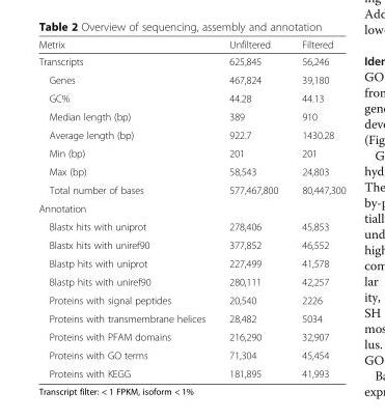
<table><thead><tr><td>Metrix</td><td>Unfiltered</td><td>Filtered</td></tr></thead><tbody><tr><td>Transcripts</td><td>625,845</td><td>56,246</td></tr><tr><td>Genes</td><td>467,824</td><td>39,180</td></tr><tr><td>GC%</td><td>44.28</td><td>44.13</td></tr><tr><td>Median length (bp)</td><td>389</td><td>910</td></tr><tr><td>Average length (bp)</td><td>922.7</td><td>1430.28</td></tr><tr><td>Min (bp)</td><td>201</td><td>201</td></tr><tr><td>Max (bp)</td><td>58,543</td><td>24,803</td></tr><tr><td>Total number of bases</td><td>577,467,800</td><td>80,447,300</td></tr><tr><td colspan="3">Annotation</td></tr><tr><td>Blastx hits with uniprot</td><td>278,406</td><td>45,853</td></tr><tr><td>Blastx hits with uniref90</td><td>377,852</td><td>46,552</td></tr><tr><td>Blastp hits with uniprot</td><td>227,499</td><td>41,578</td></tr><tr><td>Blastp hits with uniref90</td><td>280,111</td><td>42,257</td></tr><tr><td>Proteins with signal peptides</td><td>20,540</td><td>2226</td></tr><tr><td>Proteins with transmembrane helices</td><td>28,482</td><td>5034</td></tr><tr><td>Proteins with PFAM domains</td><td>216,290</td><td>32,907</td></tr><tr><td>Proteins with GO terms</td><td>71,304</td><td>45,454</td></tr><tr><td>Proteins with KEGG</td><td>181,895</td><td>41,993</td></tr></tbody></table>